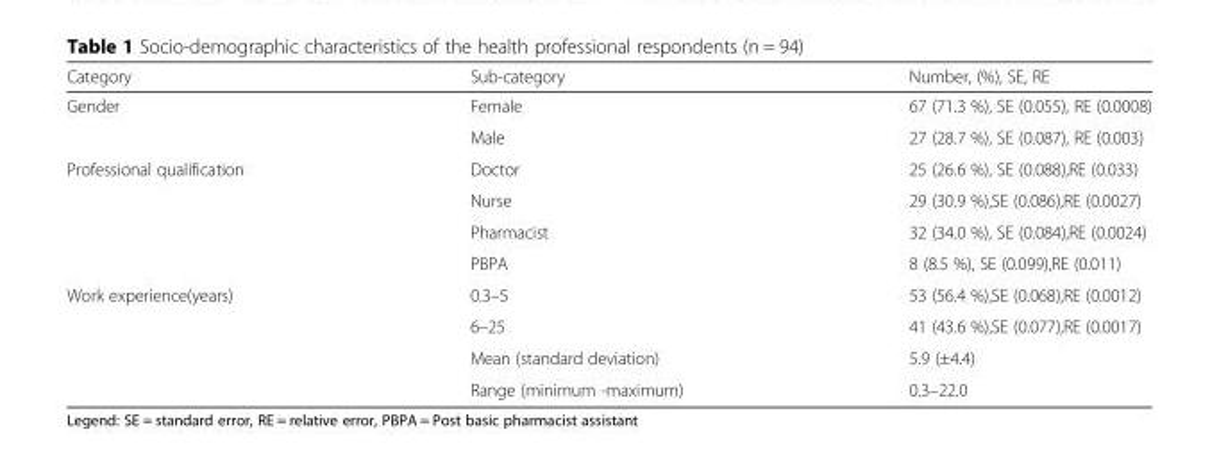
<table><thead><tr><td>Category</td><td>Sub-category</td><td>Number, (%), SE, RE</td></tr></thead><tbody><tr><td rowspan="2">Gender</td><td>Female</td><td>67 (71.3 %), SE (0.055), RE (0.0008)</td></tr><tr><td>Male</td><td>27 (28.7 %), SE (0.087), RE (0.003)</td></tr><tr><td rowspan="4">Professional qualification</td><td>Doctor</td><td>25 (26.6 %), SE (0.088),RE (0.033)</td></tr><tr><td>Nurse</td><td>29 (30.9 %),SE (0.086),RE (0.0027)</td></tr><tr><td>Pharmacist</td><td>32 (34.0 %), SE (0.084),RE (0.0024)</td></tr><tr><td>PBPA</td><td>8 (8.5 %), SE (0.099),RE (0.011)</td></tr><tr><td rowspan="4">Work experience(years)</td><td>0.3–5</td><td>53 (56.4 %),SE (0.068),RE (0.0012)</td></tr><tr><td>6–25</td><td>41 (43.6 %),SE (0.077),RE (0.0017)</td></tr><tr><td>Mean (standard deviation)</td><td>5.9 (±4.4)</td></tr><tr><td>Range (minimum -maximum)</td><td>0.3–22.0</td></tr></tbody></table>